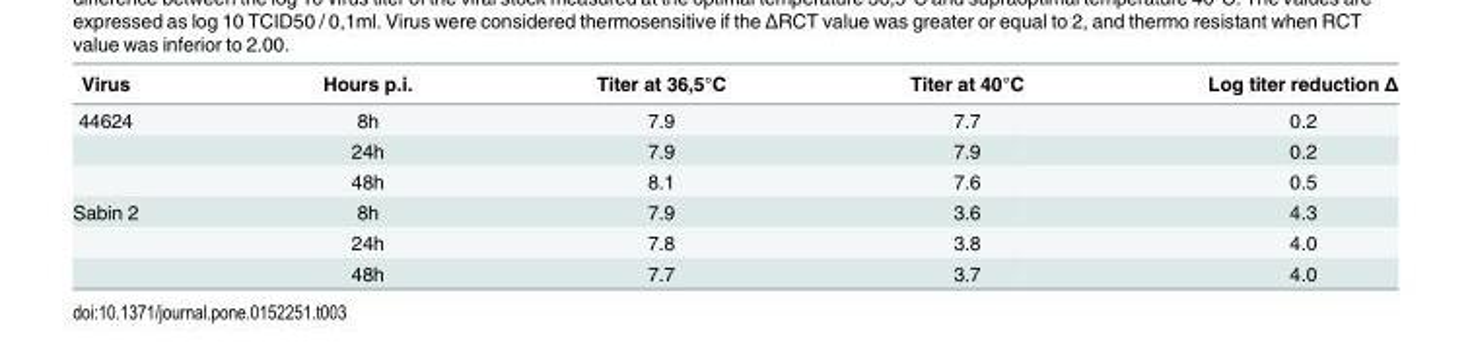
<table><thead><tr><td>Virus</td><td>Hours p.i.</td><td>Titer at 36,5°C</td><td>Titer at 40°C</td><td>Log titer reduction Δ</td></tr></thead><tbody><tr><td rowspan="3">44624</td><td>8h</td><td>7.9</td><td>7.7</td><td>0.2</td></tr><tr><td>24h</td><td>7.9</td><td>7.9</td><td>0.2</td></tr><tr><td>48h</td><td>8.1</td><td>7.6</td><td>0.5</td></tr><tr><td rowspan="3">Sabin 2</td><td>8h</td><td>7.9</td><td>3.6</td><td>4.3</td></tr><tr><td>24h</td><td>7.8</td><td>3.8</td><td>4.0</td></tr><tr><td>48h</td><td>7.7</td><td>3.7</td><td>4.0</td></tr></tbody></table>